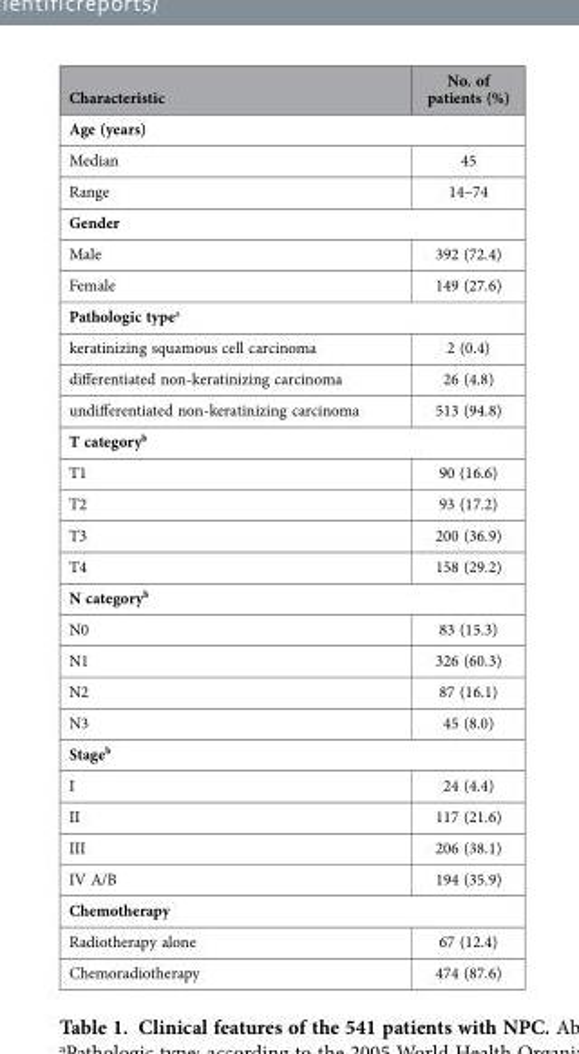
<table><thead><tr><td>Characteristic</td><td>No. of patients (%)</td></tr></thead><tbody><tr><td colspan="2">Age (years)</td></tr><tr><td>Median</td><td>45</td></tr><tr><td>Range</td><td>14–74</td></tr><tr><td colspan="2">Gender</td></tr><tr><td>Male</td><td>392 (72.4)</td></tr><tr><td>Female</td><td>149 (27.6)</td></tr><tr><td colspan="2">Pathologic type<sup>a</sup></td></tr><tr><td>keratinizing squamous cell carcinoma</td><td>2 (0.4)</td></tr><tr><td>differentiated non-keratinizing carcinoma</td><td>26 (4.8)</td></tr><tr><td>undifferentiated non-keratinizing carcinoma</td><td>513 (94.8)</td></tr><tr><td colspan="2">T category<sup>b</sup></td></tr><tr><td>T1</td><td>90 (16.6)</td></tr><tr><td>T2</td><td>93 (17.2)</td></tr><tr><td>T3</td><td>200 (36.9)</td></tr><tr><td>T4</td><td>158 (29.2)</td></tr><tr><td colspan="2">N category<sup>b</sup></td></tr><tr><td>N0</td><td>83 (15.3)</td></tr><tr><td>N1</td><td>326 (60.3)</td></tr><tr><td>N2</td><td>87 (16.1)</td></tr><tr><td>N3</td><td>45 (8.0)</td></tr><tr><td colspan="2">Stage<sup>b</sup></td></tr><tr><td>I</td><td>24 (4.4)</td></tr><tr><td>II</td><td>117 (21.6)</td></tr><tr><td>III</td><td>206 (38.1)</td></tr><tr><td>IV A/B</td><td>194 (35.9)</td></tr><tr><td colspan="2">Chemotherapy</td></tr><tr><td>Radiotherapy alone</td><td>67 (12.4)</td></tr><tr><td>Chemoradiotherapy</td><td>474 (87.6)</td></tr></tbody></table>